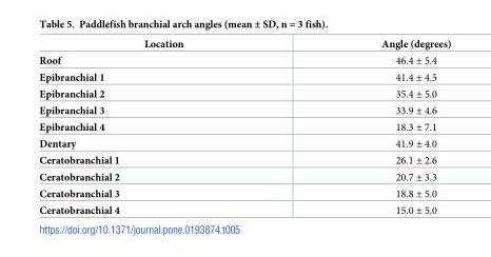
<table><thead><tr><td>Location</td><td>Angle (degrees)</td></tr></thead><tbody><tr><td>Roof</td><td>46.4 ± 5.4</td></tr><tr><td>Epibranchial 1</td><td>41.4 ± 4.5</td></tr><tr><td>Epibranchial 2</td><td>35.4 ± 5.0</td></tr><tr><td>Epibranchial 3</td><td>33.9 ± 4.6</td></tr><tr><td>Epibranchial 4</td><td>18.3 ± 7.1</td></tr><tr><td>Dentary</td><td>41.9 ± 4.0</td></tr><tr><td>Ceratobranchial 1</td><td>26.1 ± 2.6</td></tr><tr><td>Ceratobranchial 2</td><td>20.7 ± 3.3</td></tr><tr><td>Ceratobranchial 3</td><td>18.8 ± 5.0</td></tr><tr><td>Ceratobranchial 4</td><td>15.0 ± 5.0</td></tr></tbody></table>